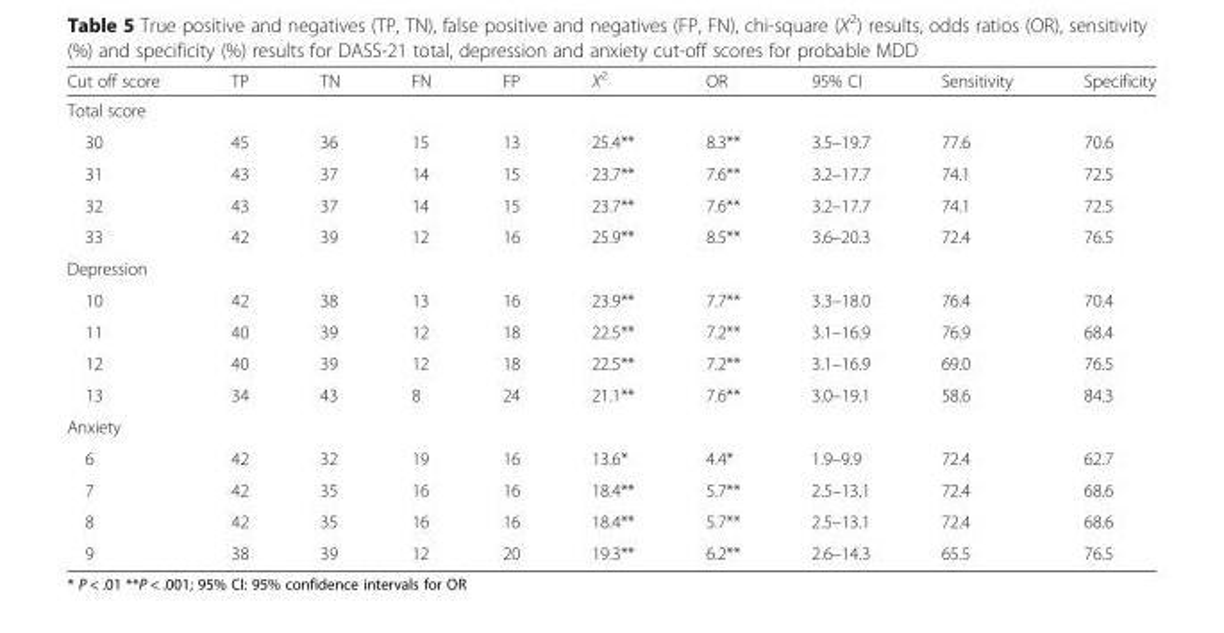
<table><thead><tr><td>Cut off score</td><td>TP</td><td>TN</td><td>FN</td><td>FP</td><td>X<sup>2</sup></td><td>OR</td><td>95% CI</td><td>Sensitivity</td><td>Specificity</td></tr></thead><tbody><tr><td colspan="10">Total score</td></tr><tr><td>30</td><td>45</td><td>36</td><td>15</td><td>13</td><td>25.4**</td><td>8.3**</td><td>3.5–19.7</td><td>77.6</td><td>70.6</td></tr><tr><td>31</td><td>43</td><td>37</td><td>14</td><td>15</td><td>23.7**</td><td>7.6**</td><td>3.2–17.7</td><td>74.1</td><td>72.5</td></tr><tr><td>32</td><td>43</td><td>37</td><td>14</td><td>15</td><td>23.7**</td><td>7.6**</td><td>3.2–17.7</td><td>74.1</td><td>72.5</td></tr><tr><td>33</td><td>42</td><td>39</td><td>12</td><td>16</td><td>25.9**</td><td>8.5**</td><td>3.6–20.3</td><td>72.4</td><td>76.5</td></tr><tr><td colspan="10">Depression</td></tr><tr><td>10</td><td>42</td><td>38</td><td>13</td><td>16</td><td>23.9**</td><td>7.7**</td><td>3.3–18.0</td><td>76.4</td><td>70.4</td></tr><tr><td>11</td><td>40</td><td>39</td><td>12</td><td>18</td><td>22.5**</td><td>7.2**</td><td>3.1–16.9</td><td>76.9</td><td>68.4</td></tr><tr><td>12</td><td>40</td><td>39</td><td>12</td><td>18</td><td>22.5**</td><td>7.2**</td><td>3.1–16.9</td><td>69.0</td><td>76.5</td></tr><tr><td>13</td><td>34</td><td>43</td><td>8</td><td>24</td><td>21.1**</td><td>7.6**</td><td>3.0–19.1</td><td>58.6</td><td>84.3</td></tr><tr><td colspan="10">Anxiety</td></tr><tr><td>6</td><td>42</td><td>32</td><td>19</td><td>16</td><td>13.6*</td><td>4.4*</td><td>1.9–9.9</td><td>72.4</td><td>62.7</td></tr><tr><td>7</td><td>42</td><td>35</td><td>16</td><td>16</td><td>18.4**</td><td>5.7**</td><td>2.5–13.1</td><td>72.4</td><td>68.6</td></tr><tr><td>8</td><td>42</td><td>35</td><td>16</td><td>16</td><td>18.4**</td><td>5.7**</td><td>2.5–13.1</td><td>72.4</td><td>68.6</td></tr><tr><td>9</td><td>38</td><td>39</td><td>12</td><td>20</td><td>19.3**</td><td>6.2**</td><td>2.6–14.3</td><td>65.5</td><td>76.5</td></tr></tbody></table>